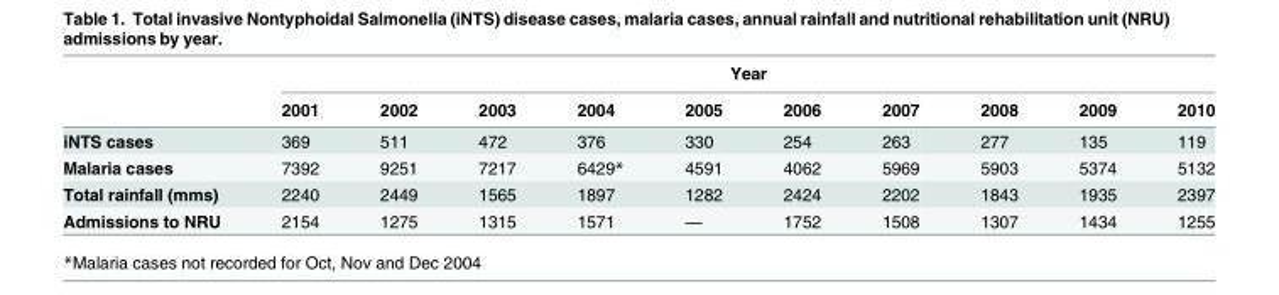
<table><thead><tr><td rowspan="2"></td><td colspan="10">Year</td></tr><tr><td>2001</td><td>2002</td><td>2003</td><td>2004</td><td>2005</td><td>2006</td><td>2007</td><td>2008</td><td>2009</td><td>2010</td></tr></thead><tbody><tr><td>iNTS cases</td><td>369</td><td>511</td><td>472</td><td>376</td><td>330</td><td>254</td><td>263</td><td>277</td><td>135</td><td>119</td></tr><tr><td>Malaria cases</td><td>7392</td><td>9251</td><td>7217</td><td>6429*</td><td>4591</td><td>4062</td><td>5969</td><td>5903</td><td>5374</td><td>5132</td></tr><tr><td>Total rainfall (mms)</td><td>2240</td><td>2449</td><td>1565</td><td>1897</td><td>1282</td><td>2424</td><td>2202</td><td>1843</td><td>1935</td><td>2397</td></tr><tr><td>Admissions to NRU</td><td>2154</td><td>1275</td><td>1315</td><td>1571</td><td>—</td><td>1752</td><td>1508</td><td>1307</td><td>1434</td><td>1255</td></tr></tbody></table>